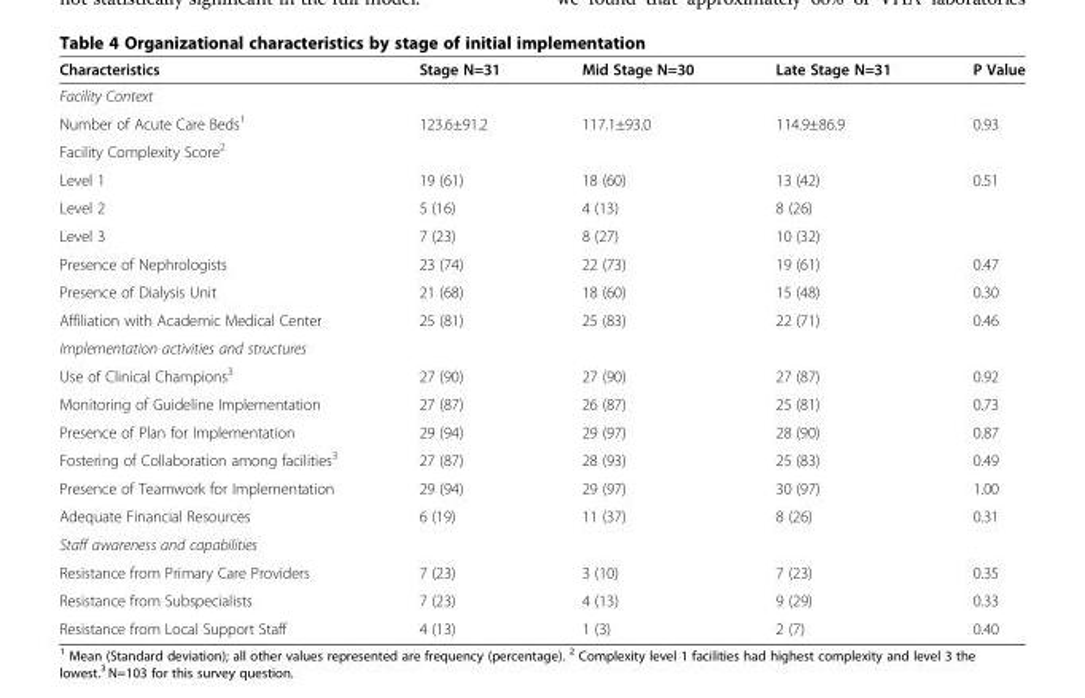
<table><thead><tr><td>Characteristics</td><td>Stage N=31</td><td>Mid Stage N=30</td><td>Late Stage N=31</td><td>P Value</td></tr></thead><tbody><tr><td colspan="5">Facility Context</td></tr><tr><td>Number of Acute Care Beds<sup>1</sup></td><td>123.6±91.2</td><td>117.1±93.0</td><td>114.9±86.9</td><td>0.93</td></tr><tr><td colspan="5">Facility Complexity Score<sup>2</sup></td></tr><tr><td>Level 1</td><td>19 (61)</td><td>18 (60)</td><td>13 (42)</td><td>0.51</td></tr><tr><td>Level 2</td><td>5 (16)</td><td>4 (13)</td><td>8 (26)</td><td></td></tr><tr><td>Level 3</td><td>7 (23)</td><td>8 (27)</td><td>10 (32)</td><td></td></tr><tr><td>Presence of Nephrologists</td><td>23 (74)</td><td>22 (73)</td><td>19 (61)</td><td>0.47</td></tr><tr><td>Presence of Dialysis Unit</td><td>21 (68)</td><td>18 (60)</td><td>15 (48)</td><td>0.30</td></tr><tr><td>Affiliation with Academic Medical Center</td><td>25 (81)</td><td>25 (83)</td><td>22 (71)</td><td>0.46</td></tr><tr><td colspan="5">Implementation activities and structures</td></tr><tr><td>Use of Clinical Champions<sup>3</sup></td><td>27 (90)</td><td>27 (90)</td><td>27 (87)</td><td>0.92</td></tr><tr><td>Monitoring of Guideline Implementation</td><td>27 (87)</td><td>26 (87)</td><td>25 (81)</td><td>0.73</td></tr><tr><td>Presence of Plan for Implementation</td><td>29 (94)</td><td>29 (97)</td><td>28 (90)</td><td>0.87</td></tr><tr><td>Fostering of Collaboration among facilities<sup>3</sup></td><td>27 (87)</td><td>28 (93)</td><td>25 (83)</td><td>0.49</td></tr><tr><td>Presence of Teamwork for Implementation</td><td>29 (94)</td><td>29 (97)</td><td>30 (97)</td><td>1.00</td></tr><tr><td>Adequate Financial Resources</td><td>6 (19)</td><td>11 (37)</td><td>8 (26)</td><td>0.31</td></tr><tr><td colspan="5">Staff awareness and capabilities</td></tr><tr><td>Resistance from Primary Care Providers</td><td>7 (23)</td><td>3 (10)</td><td>7 (23)</td><td>0.35</td></tr><tr><td>Resistance from Subspecialists</td><td>7 (23)</td><td>4 (13)</td><td>9 (29)</td><td>0.33</td></tr><tr><td>Resistance from Local Support Staff</td><td>4 (13)</td><td>1 (3)</td><td>2 (7)</td><td>0.40</td></tr></tbody></table>